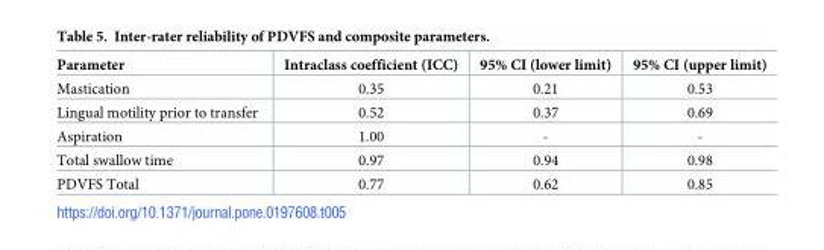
<table><thead><tr><td>Parameter</td><td>Intraclass coefficient (ICC)</td><td>95% CI (lower limit)</td><td>95% CI (upper limit)</td></tr></thead><tbody><tr><td>Mastication</td><td>0.35</td><td>0.21</td><td>0.53</td></tr><tr><td>Lingual motility prior to transfer</td><td>0.52</td><td>0.37</td><td>0.69</td></tr><tr><td>Aspiration</td><td>1.00</td><td>-</td><td>-</td></tr><tr><td>Total swallow time</td><td>0.97</td><td>0.94</td><td>0.98</td></tr><tr><td>PDVFS Total</td><td>0.77</td><td>0.62</td><td>0.85</td></tr></tbody></table>